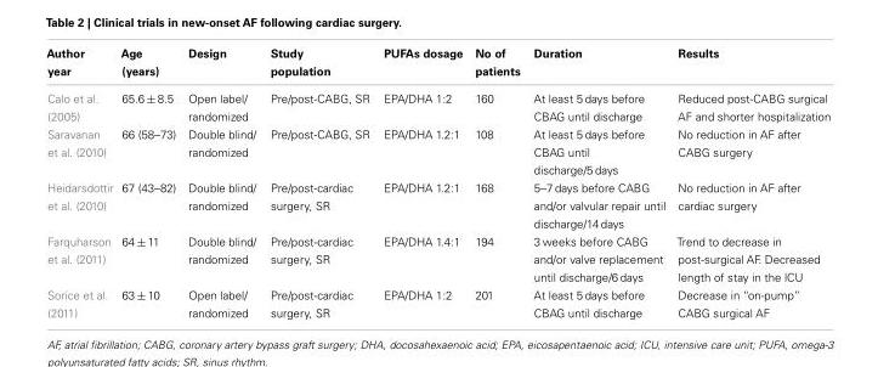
<table><thead><tr><td>Author year</td><td>Age (years)</td><td>Design</td><td>Study population</td><td>PUFAs dosage</td><td>No of patients</td><td>Duration</td><td>Results</td></tr></thead><tbody><tr><td>Calo et al. (2005)</td><td>65.6 ± 8.5</td><td>Open label/ randomized</td><td>Pre/post-CABG, SR</td><td>EPA/DHA 1:2</td><td>160</td><td>At least 5 days before CBAG until discharge</td><td>Reduced post-CABG surgical AF and shorter hospitalization</td></tr><tr><td>Saravanan et al. (2010)</td><td>66 (58–73)</td><td>Double blind/ randomized</td><td>Pre/post-CABG, SR</td><td>EPA/DHA 1.2:1</td><td>108</td><td>At least 5 days before CBAG until discharge/5 days</td><td>No reduction in AF after CABG surgery</td></tr><tr><td>Heidarsdottir et al. (2010)</td><td>67 (43–82)</td><td>Double blind/ randomized</td><td>Pre/post-cardiac surgery, SR</td><td>EPA/DHA 1.2:1</td><td>168</td><td>5–7 days before CABG and/or valvular repair until discharge/14 days</td><td>No reduction in AF after cardiac surgery</td></tr><tr><td>Farquharson et al. (2011)</td><td>64 ± 11</td><td>Double blind/ randomized</td><td>Pre/post-cardiac surgery, SR</td><td>EPA/DHA 1.4:1</td><td>194</td><td>3 weeks before CABG and/or valve replacement until discharge/6 days</td><td>Trend to decrease in post-surgical AF. Decreased length of stay in the lCU</td></tr><tr><td>Sorice et al. (2011)</td><td>63 ± 10</td><td>Open label/ randomized</td><td>Pre/post-cardiac surgery, SR</td><td>EPA/DHA 1:2</td><td>201</td><td>At least 5 days before CBAG until discharge</td><td>Decrease in “on-pump” CABG surgical AF</td></tr></tbody></table>